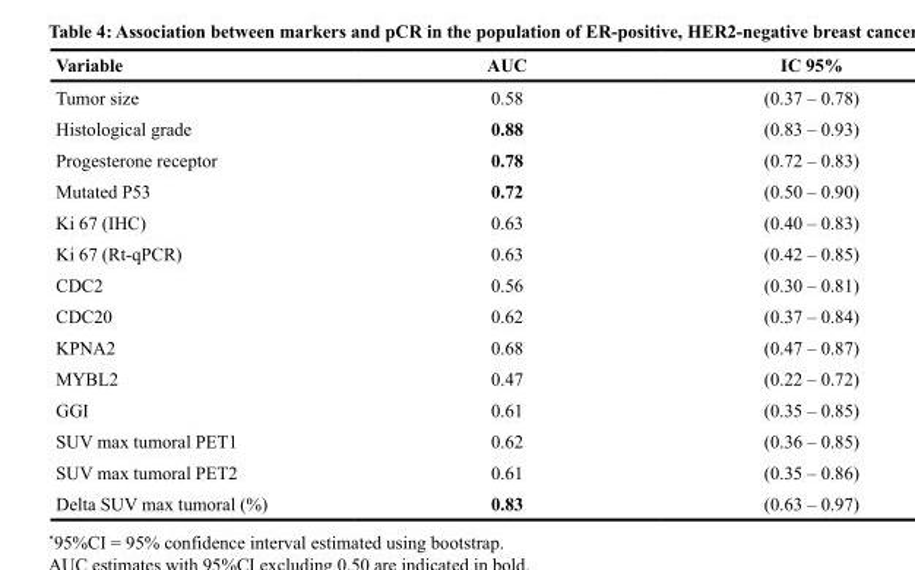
<table><thead><tr><td>Variable</td><td>AUC</td><td>IC 95%</td></tr></thead><tbody><tr><td>Tumor size</td><td>0.58</td><td>(0.37 – 0.78)</td></tr><tr><td>Histological grade</td><td>0.88</td><td>(0.83 – 0.93)</td></tr><tr><td>Progesterone receptor</td><td>0.78</td><td>(0.72 – 0.83)</td></tr><tr><td>Mutated P53</td><td>0.72</td><td>(0.50 – 0.90)</td></tr><tr><td>Ki 67 (IHC)</td><td>0.63</td><td>(0.40 – 0.83)</td></tr><tr><td>Ki 67 (Rt-qPCR)</td><td>0.63</td><td>(0.42 – 0.85)</td></tr><tr><td>CDC2</td><td>0.56</td><td>(0.30 – 0.81)</td></tr><tr><td>CDC20</td><td>0.62</td><td>(0.37 – 0.84)</td></tr><tr><td>KPNA2</td><td>0.68</td><td>(0.47 – 0.87)</td></tr><tr><td>MYBL2</td><td>0.47</td><td>(0.22 – 0.72)</td></tr><tr><td>GGI</td><td>0.61</td><td>(0.35 – 0.85)</td></tr><tr><td>SUV max tumoral PET1</td><td>0.62</td><td>(0.36 – 0.85)</td></tr><tr><td>SUV max tumoral PET2</td><td>0.61</td><td>(0.35 – 0.86)</td></tr><tr><td>Delta SUV max tumoral (%)</td><td>0.83</td><td>(0.63 – 0.97)</td></tr></tbody></table>